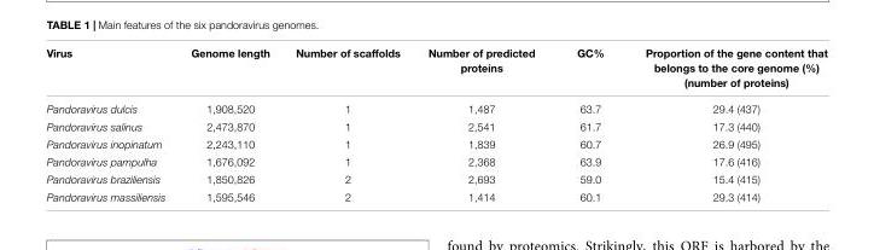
<table><thead><tr><td>Virus</td><td>Genome length</td><td>Number of scaffolds</td><td>Number of predicted proteins</td><td>GC%</td><td>Proportion of the gene content that belongs to the core genome (%) (number of proteins)</td></tr></thead><tbody><tr><td>Pandoravirus dulcis</td><td>1,908,520</td><td>1</td><td>1,487</td><td>63.7</td><td>29.4 (437)</td></tr><tr><td>Pandoravirus salinus</td><td>2,473,870</td><td>1</td><td>2,541</td><td>61.7</td><td>17.3 (440)</td></tr><tr><td>Pandoravirus inopinatum</td><td>2,243,110</td><td>1</td><td>1,839</td><td>60.7</td><td>26.9 (495)</td></tr><tr><td>Pandoravirus pampulha</td><td>1,676,092</td><td>1</td><td>2,368</td><td>63.9</td><td>17.6 (416)</td></tr><tr><td>Pandoravirus braziliensis</td><td>1,850,826</td><td>2</td><td>2,693</td><td>59.0</td><td>15.4 (415)</td></tr><tr><td>Pandoravirus massiliensis</td><td>1,595,546</td><td>2</td><td>1,414</td><td>60.1</td><td>29.3 (414)</td></tr></tbody></table>